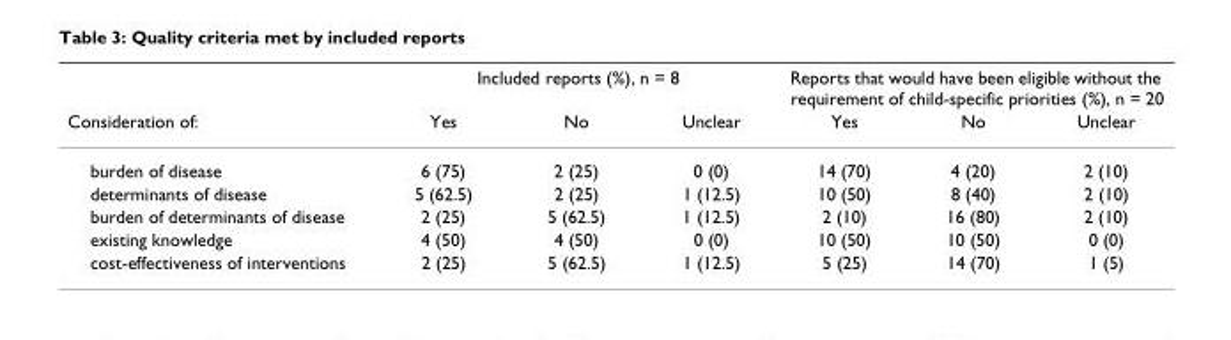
<table><thead><tr><td rowspan="2">Consideration of:</td><td colspan="3">Included reports (%), n = 8</td><td colspan="3">Reports that would have been eligible without the requirement of child-specific priorities (%), n = 20</td></tr><tr><td>Yes</td><td>No</td><td>Unclear</td><td>Yes</td><td>No</td><td>Unclear</td></tr></thead><tbody><tr><td>burden of disease</td><td>6 (75)</td><td>2 (25)</td><td>0 (0)</td><td>14 (70)</td><td>4 (20)</td><td>2 (10)</td></tr><tr><td>determinants of disease</td><td>5 (62.5)</td><td>2 (25)</td><td>1 (12.5)</td><td>10 (50)</td><td>8 (40)</td><td>2 (10)</td></tr><tr><td>burden of determinants of disease</td><td>2 (25)</td><td>5 (62.5)</td><td>1 (12.5)</td><td>2 (10)</td><td>16 (80)</td><td>2 (10)</td></tr><tr><td>existing knowledge</td><td>4 (50)</td><td>4 (50)</td><td>0 (0)</td><td>10 (50)</td><td>10 (50)</td><td>0 (0)</td></tr><tr><td>cost-effectiveness of interventions</td><td>2 (25)</td><td>5 (62.5)</td><td>1 (12.5)</td><td>5 (25)</td><td>14 (70)</td><td>1 (5)</td></tr></tbody></table>